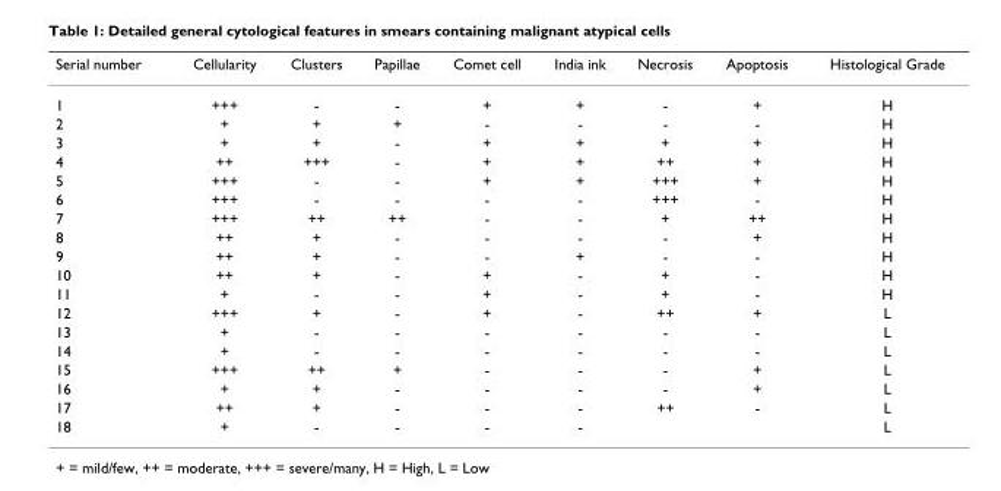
<table><thead><tr><td>Serial number</td><td>Cellularity</td><td>Clusters</td><td>Papillae</td><td>Comet cell</td><td>India ink</td><td>Necrosis</td><td>Apoptosis</td><td>Histological Grade</td></tr></thead><tbody><tr><td>1</td><td>+++</td><td>-</td><td>-</td><td>+</td><td>+</td><td>-</td><td>+</td><td>H</td></tr><tr><td>2</td><td>+</td><td>+</td><td>+</td><td>-</td><td>-</td><td>-</td><td>-</td><td>H</td></tr><tr><td>3</td><td>+</td><td>+</td><td>-</td><td>+</td><td>+</td><td>+</td><td>+</td><td>H</td></tr><tr><td>4</td><td>++</td><td>+++</td><td>-</td><td>+</td><td>+</td><td>++</td><td>+</td><td>H</td></tr><tr><td>5</td><td>+++</td><td>-</td><td>-</td><td>+</td><td>+</td><td>+++</td><td>+</td><td>H</td></tr><tr><td>6</td><td>+++</td><td>-</td><td>-</td><td>-</td><td>-</td><td>+++</td><td>-</td><td>H</td></tr><tr><td>7</td><td>+++</td><td>++</td><td>++</td><td>-</td><td>-</td><td>+</td><td>++</td><td>H</td></tr><tr><td>8</td><td>++</td><td>+</td><td>-</td><td>-</td><td>-</td><td>-</td><td>+</td><td>H</td></tr><tr><td>9</td><td>++</td><td>+</td><td>-</td><td>-</td><td>+</td><td>-</td><td>-</td><td>H</td></tr><tr><td>10</td><td>++</td><td>+</td><td>-</td><td>+</td><td>-</td><td>+</td><td>-</td><td>H</td></tr><tr><td>11</td><td>+</td><td>-</td><td>-</td><td>+</td><td>-</td><td>+</td><td>-</td><td>H</td></tr><tr><td>12</td><td>+++</td><td>+</td><td>-</td><td>+</td><td>-</td><td>++</td><td>+</td><td>L</td></tr><tr><td>13</td><td>+</td><td>-</td><td>-</td><td>-</td><td>-</td><td>-</td><td>-</td><td>L</td></tr><tr><td>14</td><td>+</td><td>-</td><td>-</td><td>-</td><td>-</td><td>-</td><td>-</td><td>L</td></tr><tr><td>15</td><td>+++</td><td>++</td><td>+</td><td>-</td><td>-</td><td>-</td><td>+</td><td>L</td></tr><tr><td>16</td><td>+</td><td>+</td><td>-</td><td>-</td><td>-</td><td>-</td><td>+</td><td>L</td></tr><tr><td>17</td><td>++</td><td>+</td><td>-</td><td>-</td><td>-</td><td>++</td><td>-</td><td>L</td></tr><tr><td>18</td><td>+</td><td>-</td><td>-</td><td>-</td><td>-</td><td></td><td></td><td>L</td></tr></tbody></table>